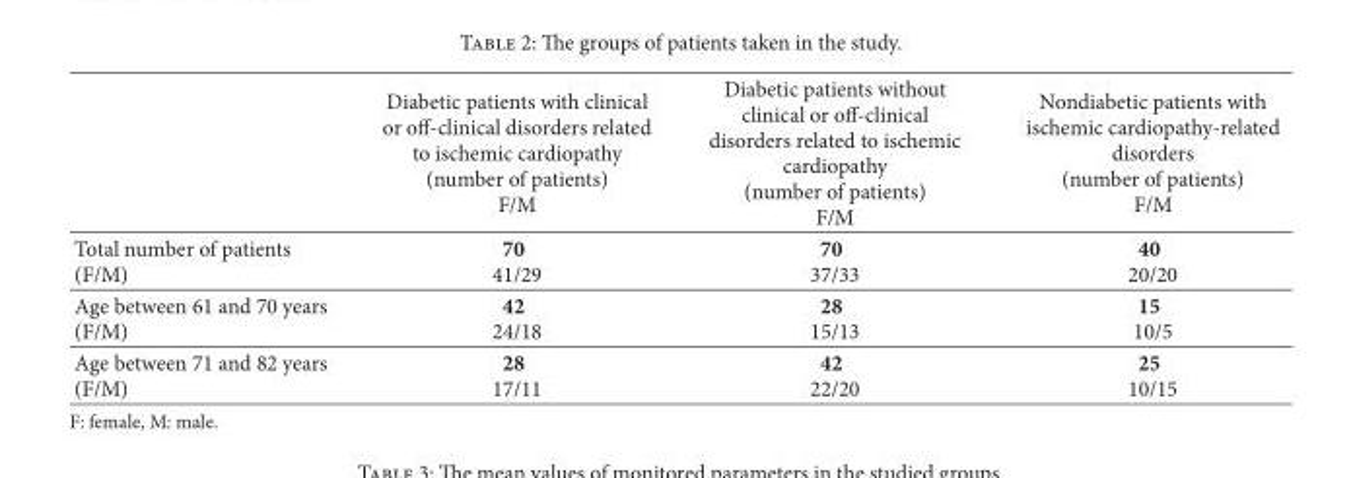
<table><thead><tr><td></td><td>Diabetic patients with clinical or off-clinical disorders related to ischemic cardiopathy (number of patients) F/M</td><td>Diabetic patients without clinical or off-clinical disorders related to ischemic cardiopathy (number of patients) F/M</td><td>Nondiabetic patients with ischemic cardiopathy-related disorders (number of patients) F/M</td></tr></thead><tbody><tr><td>Total number of patients (F/M)</td><td>70 41/29</td><td>70 37/33</td><td>40 20/20</td></tr><tr><td>Age between 61 and 70 years (F/M)</td><td>42 24/18</td><td>28 15/13</td><td>15 10/5</td></tr><tr><td>Age between 71 and 82 years (F/M)</td><td>28 17/11</td><td>42 22/20</td><td>25 10/15</td></tr></tbody></table>